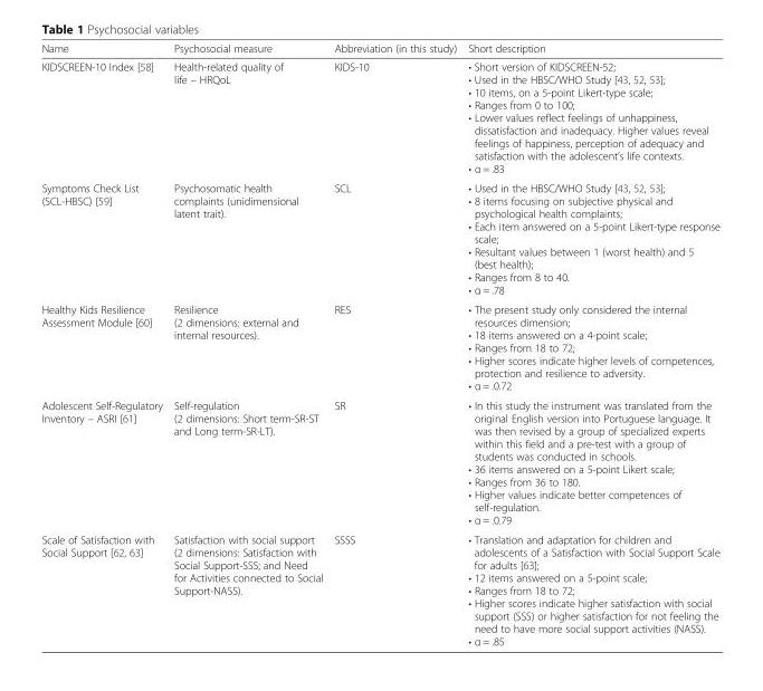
<table><thead><tr><td>Name</td><td>Psychosocial measure</td><td>Abbreviation (in this study)</td><td>Short description</td></tr></thead><tbody><tr><td>KIDSCREEN-10 Index [58]</td><td>Health-related quality of life – HRQoL</td><td>KIDS-10</td><td>• Short version of KIDSCREEN-52; • Used in the HBSC/WHO Study [43, 52, 53]; • 10 items, on a 5-point Likert-type scale; • Ranges from 0 to 100; • Lower values reflect feelings of unhappiness, dissatisfaction and inadequacy. Higher values reveal feelings of happiness, perception of adequacy and satisfaction with the adolescent’s life contexts. • α = .83</td></tr><tr><td>Symptoms Check List (SCL-HBSC) [59]</td><td>Psychosomatic health complaints (unidimensional latent trait).</td><td>SCL</td><td>• Used in the HBSC/WHO Study [43, 52, 53]; • 8 items focusing on subjective physical and psychological health complaints; • Each item answered on a 5-point Likert-type response scale; • Resultant values between 1 (worst health) and 5 (best health); • Ranges from 8 to 40. • α = .78</td></tr><tr><td>Healthy Kids Resilience Assessment Module [60]</td><td>Resilience (2 dimensions: external and internal resources).</td><td>RES</td><td>• The present study only considered the internal resources dimension; • 18 items answered on a 4-point scale; • Ranges from 18 to 72; • Higher scores indicate higher levels of competences, protection and resilience to adversity. • α = .0.72</td></tr><tr><td>Adolescent Self-Regulatory Inventory – ASRI [61]</td><td>Self-regulation (2 dimensions: Short term-SR-ST and Long term-SR-LT).</td><td>SR</td><td>• In this study the instrument was translated from the original English version into Portuguese language. It was then revised by a group of specialized experts within this field and a pre-test with a group of students was conducted in schools. • 36 items answered on a 5-point Likert scale; • Ranges from 36 to 180. • Higher values indicate better competences of self-regulation. • α = .0.79</td></tr><tr><td>Scale of Satisfaction with Social Support [62, 63]</td><td>Satisfaction with social support (2 dimensions: Satisfaction with Social Support-SSS; and Need for Activities connected to Social Support-NASS).</td><td>SSSS</td><td>• Translation and adaptation for children and adolescents of a Satisfaction with Social Support Scale for adults [63]; • 12 items answered on a 5-point scale; • Ranges from 18 to 72; • Higher scores indicate higher satisfaction with social support (SSS) or higher satisfaction for not feeling the need to have more social support activities (NASS). • α = .85</td></tr></tbody></table>